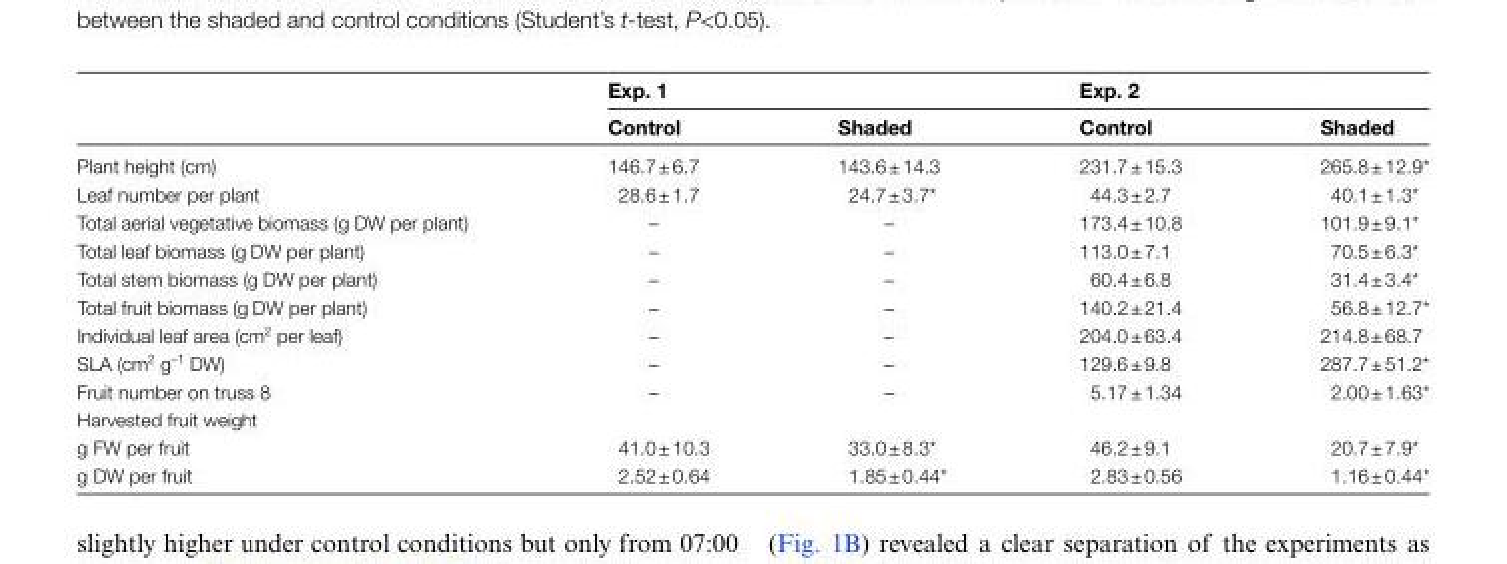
<table><thead><tr><td rowspan="2"></td><td colspan="2">Exp. 1</td><td colspan="2">Exp. 2</td></tr><tr><td>Control</td><td>Shaded</td><td>Control</td><td>Shaded</td></tr></thead><tbody><tr><td>Plant height (cm)</td><td>146.7 ± 6.7</td><td>143.6 ± 14.3</td><td>231.7 ± 15.3</td><td>265.8 ± 12.9*</td></tr><tr><td>Leaf number per plant</td><td>28.6 ± 1.7</td><td>24.7 ± 3.7*</td><td>44.3 ± 2.7</td><td>40.1 ± 1.3*</td></tr><tr><td>Total aerial vegetative biomass (g DW per plant)</td><td>–</td><td>–</td><td>173.4 ± 10.8</td><td>101.9 ± 9.1*</td></tr><tr><td>Total leaf biomass (g DW per plant)</td><td>–</td><td>–</td><td>113.0 ± 7.1</td><td>70.5 ± 6.3*</td></tr><tr><td>Total stem biomass (g DW per plant)</td><td>–</td><td>–</td><td>60.4 ± 6.8</td><td>31.4 ± 3.4*</td></tr><tr><td>Total fruit biomass (g DW per plant)</td><td>–</td><td>–</td><td>140.2 ± 21.4</td><td>56.8 ± 12.7*</td></tr><tr><td>Individual leaf area (cm<sup>2</sup> per leaf)</td><td>–</td><td>–</td><td>204.0 ± 63.4</td><td>214.8 ± 68.7</td></tr><tr><td>SLA (cm<sup>2</sup> g<sup>–1</sup> DW)</td><td>–</td><td>–</td><td>129.6 ± 9.8</td><td>287.7 ± 51.2*</td></tr><tr><td>Fruit number on truss 8</td><td>–</td><td>–</td><td>5.17 ± 1.34</td><td>2.00 ± 1.63*</td></tr><tr><td colspan="5">Harvested fruit weight</td></tr><tr><td>g FW per fruit</td><td>41.0 ± 10.3</td><td>33.0 ± 8.3*</td><td>46.2 ± 9.1</td><td>20.7 ± 7.9*</td></tr><tr><td>g DW per fruit</td><td>2.52 ± 0.64</td><td>1.85 ± 0.44*</td><td>2.83 ± 0.56</td><td>1.16 ± 0.44*</td></tr></tbody></table>